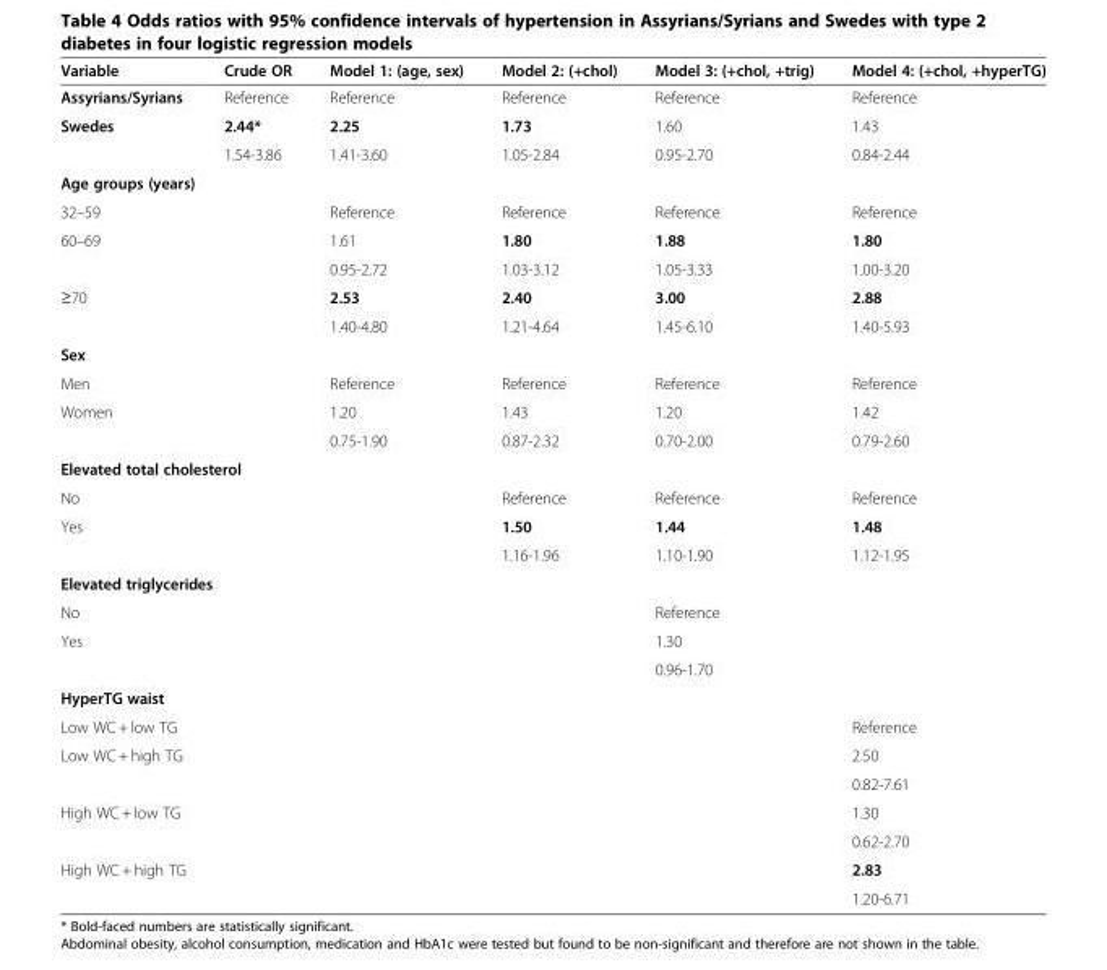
<table><thead><tr><td>Variable</td><td>Crude OR</td><td>Model 1: (age, sex)</td><td>Model 2: (+chol)</td><td>Model 3: (+chol, +trig)</td><td>Model 4: (+chol, +hyperTG)</td></tr></thead><tbody><tr><td>Assyrians/Syrians</td><td>Reference</td><td>Reference</td><td>Reference</td><td>Reference</td><td>Reference</td></tr><tr><td rowspan="2">Swedes</td><td>2.44*</td><td>2.25</td><td>1.73</td><td>1.60</td><td>1.43</td></tr><tr><td>1.54-3.86</td><td>1.41-3.60</td><td>1.05-2.84</td><td>0.95-2.70</td><td>0.84-2.44</td></tr><tr><td colspan="6">Age groups (years)</td></tr><tr><td>32–59</td><td></td><td>Reference</td><td>Reference</td><td>Reference</td><td>Reference</td></tr><tr><td rowspan="2">60–69</td><td rowspan="2"></td><td>1.61</td><td>1.80</td><td>1.88</td><td>1.80</td></tr><tr><td>0.95-2.72</td><td>1.03-3.12</td><td>1.05-3.33</td><td>1.00-3.20</td></tr><tr><td rowspan="2">≥70</td><td rowspan="2"></td><td>2.53</td><td>2.40</td><td>3.00</td><td>2.88</td></tr><tr><td>1.40-4.80</td><td>1.21-4.64</td><td>1.45-6.10</td><td>1.40-5.93</td></tr><tr><td colspan="6">Sex</td></tr><tr><td>Men</td><td></td><td>Reference</td><td>Reference</td><td>Reference</td><td>Reference</td></tr><tr><td rowspan="2">Women</td><td rowspan="2"></td><td>1.20</td><td>1.43</td><td>1.20</td><td>1.42</td></tr><tr><td>0.75-1.90</td><td>0.87-2.32</td><td>0.70-2.00</td><td>0.79-2.60</td></tr><tr><td colspan="6">Elevated total cholesterol</td></tr><tr><td>No</td><td></td><td></td><td>Reference</td><td>Reference</td><td>Reference</td></tr><tr><td rowspan="2">Yes</td><td rowspan="2"></td><td rowspan="2"></td><td>1.50</td><td>1.44</td><td>1.48</td></tr><tr><td>1.16-1.96</td><td>1.10-1.90</td><td>1.12-1.95</td></tr><tr><td colspan="6">Elevated triglycerides</td></tr><tr><td>No</td><td></td><td></td><td></td><td>Reference</td><td></td></tr><tr><td rowspan="2">Yes</td><td rowspan="2"></td><td rowspan="2"></td><td rowspan="2"></td><td>1.30</td><td rowspan="2"></td></tr><tr><td>0.96-1.70</td></tr><tr><td colspan="6">HyperTG waist</td></tr><tr><td>Low WC + low TG</td><td></td><td></td><td></td><td></td><td>Reference</td></tr><tr><td rowspan="2">Low WC + high TG</td><td rowspan="2"></td><td rowspan="2"></td><td rowspan="2"></td><td rowspan="2"></td><td>2.50</td></tr><tr><td>0.82-7.61</td></tr><tr><td rowspan="2">High WC + low TG</td><td rowspan="2"></td><td rowspan="2"></td><td rowspan="2"></td><td rowspan="2"></td><td>1.30</td></tr><tr><td>0.62-2.70</td></tr><tr><td rowspan="2">High WC + high TG</td><td rowspan="2"></td><td rowspan="2"></td><td rowspan="2"></td><td rowspan="2"></td><td>2.83</td></tr><tr><td>1.20-6.71</td></tr></tbody></table>